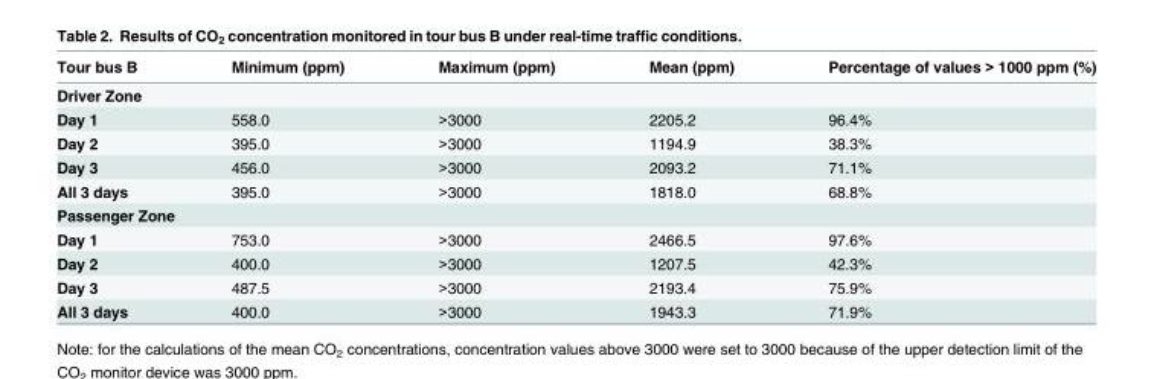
<table><thead><tr><td>Tour bus B</td><td>Minimum (ppm)</td><td>Maximum (ppm)</td><td>Mean (ppm)</td><td>Percentage of values &gt; 1000 ppm (%)</td></tr></thead><tbody><tr><td colspan="5">Driver Zone</td></tr><tr><td>Day 1</td><td>558.0</td><td>&gt;3000</td><td>2205.2</td><td>96.4%</td></tr><tr><td>Day 2</td><td>395.0</td><td>&gt;3000</td><td>1194.9</td><td>38.3%</td></tr><tr><td>Day 3</td><td>456.0</td><td>&gt;3000</td><td>2093.2</td><td>71.1%</td></tr><tr><td>All 3 days</td><td>395.0</td><td>&gt;3000</td><td>1818.0</td><td>68.8%</td></tr><tr><td colspan="5">Passenger Zone</td></tr><tr><td>Day 1</td><td>753.0</td><td>&gt;3000</td><td>2466.5</td><td>97.6%</td></tr><tr><td>Day 2</td><td>400.0</td><td>&gt;3000</td><td>1207.5</td><td>42.3%</td></tr><tr><td>Day 3</td><td>487.5</td><td>&gt;3000</td><td>2193.4</td><td>75.9%</td></tr><tr><td>All 3 days</td><td>400.0</td><td>&gt;3000</td><td>1943.3</td><td>71.9%</td></tr></tbody></table>